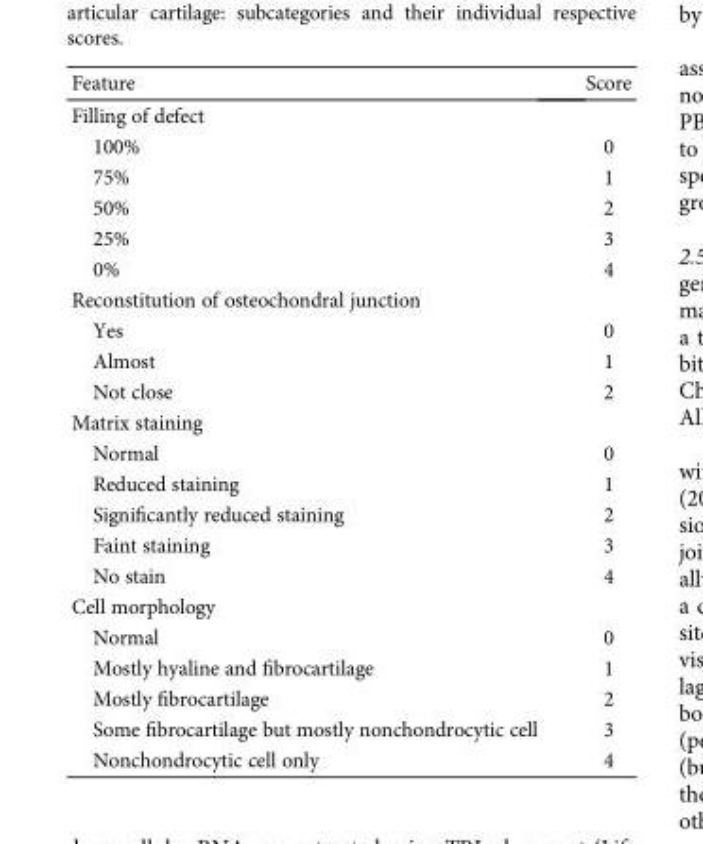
<table><thead><tr><td>Feature</td><td>Score</td></tr></thead><tbody><tr><td colspan="2">Filling of defect</td></tr><tr><td>100%</td><td>0</td></tr><tr><td>75%</td><td>1</td></tr><tr><td>50%</td><td>2</td></tr><tr><td>25%</td><td>3</td></tr><tr><td>0%</td><td>4</td></tr><tr><td colspan="2">Reconstitution of osteochondral junction</td></tr><tr><td>Yes</td><td>0</td></tr><tr><td>Almost</td><td>1</td></tr><tr><td>Not close</td><td>2</td></tr><tr><td colspan="2">Matrix staining</td></tr><tr><td>Normal</td><td>0</td></tr><tr><td>Reduced staining</td><td>1</td></tr><tr><td>Significantly reduced staining</td><td>2</td></tr><tr><td>Faint staining</td><td>3</td></tr><tr><td>No stain</td><td>4</td></tr><tr><td colspan="2">Cell morphology</td></tr><tr><td>Normal</td><td>0</td></tr><tr><td>Mostly hyaline and fibrocartilage</td><td>1</td></tr><tr><td>Mostly fibrocartilage</td><td>2</td></tr><tr><td>Some fibrocartilage but mostly nonchondrocytic cell</td><td>3</td></tr><tr><td>Nonchondrocytic cell only</td><td>4</td></tr></tbody></table>